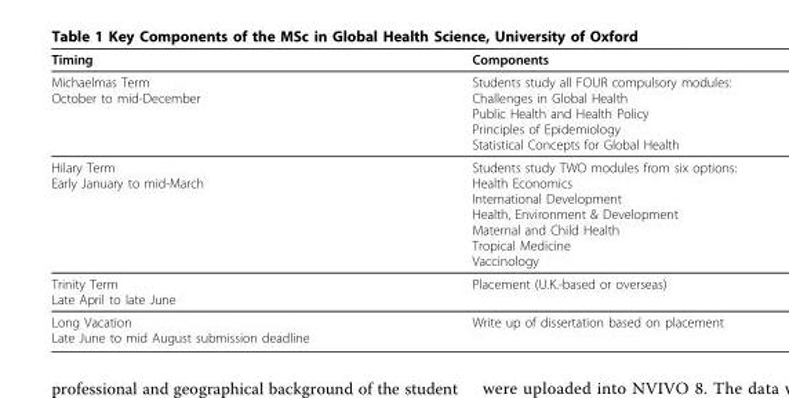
<table><thead><tr><td>Timing</td><td>Components</td></tr></thead><tbody><tr><td>Michaelmas Term October to mid-December</td><td>Students study all FOUR compulsory modules: Challenges in Global Health Public Health and Health Policy Principles of Epidemiology Statistical Concepts for Global Health</td></tr><tr><td>Hilary Term Early January to mid-March</td><td>Students study TWO modules from six options: Health Economics International Development Health, Environment &amp; Development Maternal and Child Health Tropical Medicine Vaccinology</td></tr><tr><td>Trinity Term Late April to late June</td><td>Placement (U.K.-based or overseas)</td></tr><tr><td>Long Vacation Late June to mid August submission deadline</td><td>Write up of dissertation based on placement</td></tr></tbody></table>